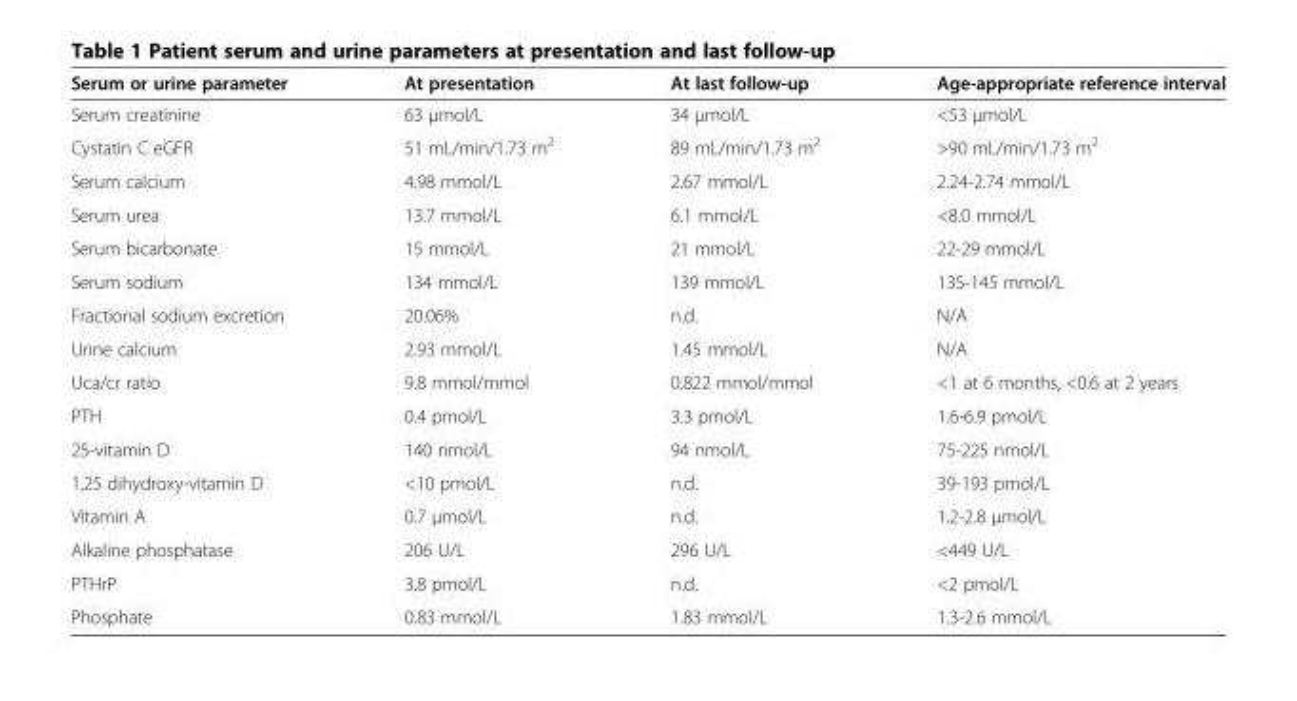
<table><thead><tr><td>Serum or urine parameter</td><td>At presentation</td><td>At last follow-up</td><td>Age-appropriate reference interval</td></tr></thead><tbody><tr><td>Serum creatinine</td><td>63 μmol/L</td><td>34 μmol/L</td><td>&lt;53 μmol/L</td></tr><tr><td>Cystatin C eGFR</td><td>51 mL/min/1.73 m<sup>2</sup></td><td>89 mL/min/1.73 m<sup>2</sup></td><td>&gt;90 mL/min/1.73 m<sup>2</sup></td></tr><tr><td>Serum calcium</td><td>4.98 mmol/L</td><td>2.67 mmol/L</td><td>2.24-2.74 mmol/L</td></tr><tr><td>Serum urea</td><td>13.7 mmol/L</td><td>6.1 mmol/L</td><td>&lt;8.0 mmol/L</td></tr><tr><td>Serum bicarbonate</td><td>15 mmol/L</td><td>21 mmol/L</td><td>22-29 mmol/L</td></tr><tr><td>Serum sodium</td><td>134 mmol/L</td><td>139 mmol/L</td><td>135-145 mmol/L</td></tr><tr><td>Fractional sodium excretion</td><td>20.06%</td><td>n.d.</td><td>N/A</td></tr><tr><td>Urine calcium</td><td>2.93 mmol/L</td><td>1.45 mmol/L</td><td>N/A</td></tr><tr><td>Uca/cr ratio</td><td>9.8 mmol/mmol</td><td>0.822 mmol/mmol</td><td>&lt;1 at 6 months, &lt;0.6 at 2 years</td></tr><tr><td>PTH</td><td>0.4 pmol/L</td><td>3.3 pmol/L</td><td>1.6-6.9 pmol/L</td></tr><tr><td>25-vitamin D</td><td>140 nmol/L</td><td>94 nmol/L</td><td>75-225 nmol/L</td></tr><tr><td>1,25 dihydroxy-vitamin D</td><td>&lt;10 pmol/L</td><td>n.d.</td><td>39-193 pmol/L</td></tr><tr><td>Vitamin A</td><td>0.7 μmol/L</td><td>n.d.</td><td>1.2-2.8 μmol/L</td></tr><tr><td>Alkaline phosphatase</td><td>206 U/L</td><td>296 U/L</td><td>&lt;449 U/L</td></tr><tr><td>PTHrP</td><td>3.8 pmol/L</td><td>n.d.</td><td>&lt;2 pmol/L</td></tr><tr><td>Phosphate</td><td>0.83 mmol/L</td><td>1.83 mmol/L</td><td>1.3-2.6 mmol/L</td></tr></tbody></table>